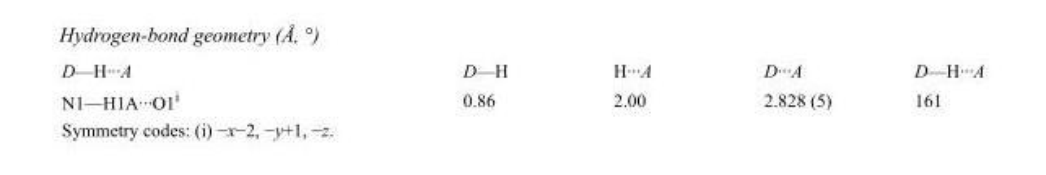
<table><tbody><tr><td>D—H···A</td><td>D—H</td><td>H···A</td><td>D···A</td><td>D—H···A</td></tr><tr><td>N1—H1A···O1<sup>i</sup></td><td>0.86</td><td>2.00</td><td>2.828 (5)</td><td>161</td></tr></tbody></table>